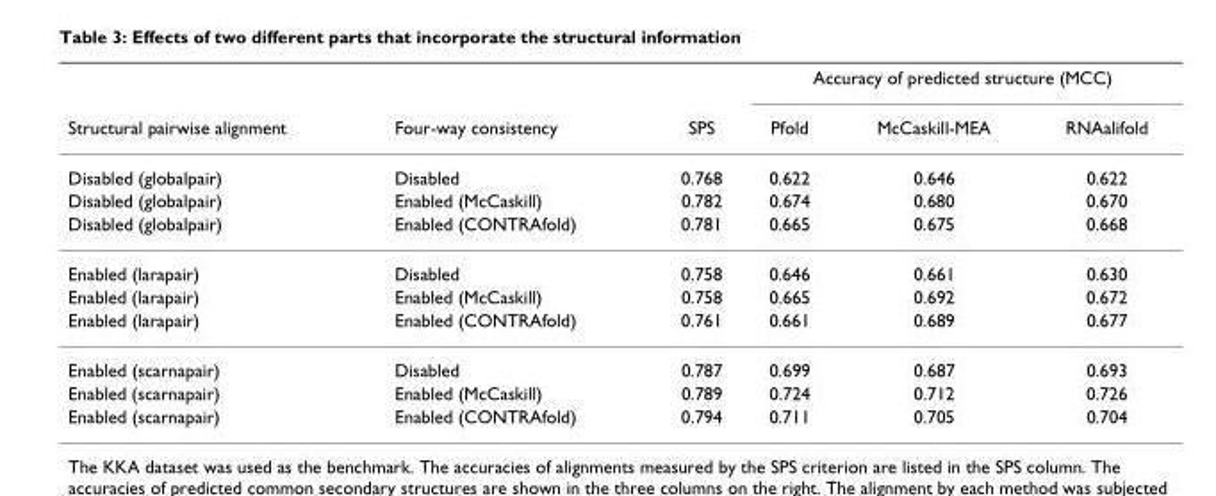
<table><thead><tr><td rowspan="2">Structural pairwise alignment</td><td rowspan="2">Four-way consistency</td><td rowspan="2">SPS</td><td colspan="3">Accuracy of predicted structure (MCC)</td></tr><tr><td>Pfold</td><td>McCaskill-MEA</td><td>RNAalifold</td></tr></thead><tbody><tr><td>Disabled (globalpair)</td><td>Disabled</td><td>0.768</td><td>0.622</td><td>0.646</td><td>0.622</td></tr><tr><td>Disabled (globalpair)</td><td>Enabled (McCaskill)</td><td>0.782</td><td>0.674</td><td>0.680</td><td>0.670</td></tr><tr><td>Disabled (globalpair)</td><td>Enabled (CONTRAfold)</td><td>0.781</td><td>0.665</td><td>0.675</td><td>0.668</td></tr><tr><td>Enabled (larapair)</td><td>Disabled</td><td>0.758</td><td>0.646</td><td>0.661</td><td>0.630</td></tr><tr><td>Enabled (larapair)</td><td>Enabled (McCaskill)</td><td>0.758</td><td>0.665</td><td>0.692</td><td>0.672</td></tr><tr><td>Enabled (larapair)</td><td>Enabled (CONTRAfold)</td><td>0.761</td><td>0.661</td><td>0.689</td><td>0.677</td></tr><tr><td>Enabled (scarnapair)</td><td>Disabled</td><td>0.787</td><td>0.699</td><td>0.687</td><td>0.693</td></tr><tr><td>Enabled (scarnapair)</td><td>Enabled (McCaskill)</td><td>0.789</td><td>0.724</td><td>0.712</td><td>0.726</td></tr><tr><td>Enabled (scarnapair)</td><td>Enabled (CONTRAfold)</td><td>0.794</td><td>0.711</td><td>0.705</td><td>0.704</td></tr></tbody></table>